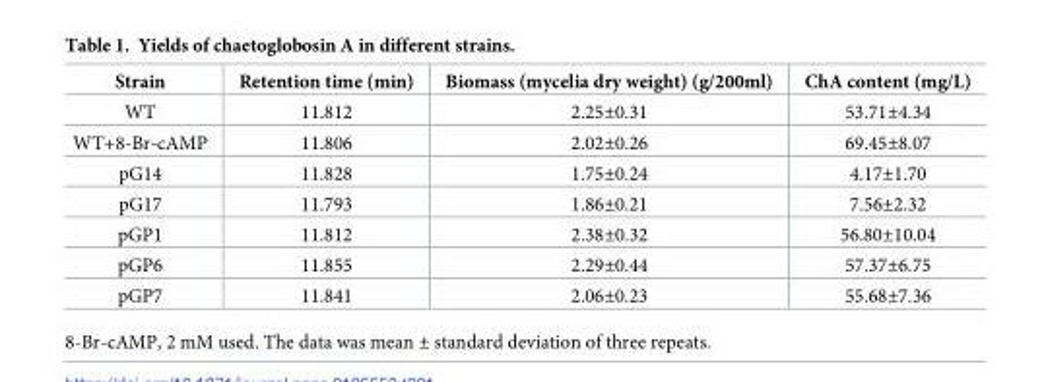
<table><thead><tr><td>Strain</td><td>Retention time (min)</td><td>Biomass (mycelia dry weight) (g/200ml)</td><td>ChA content (mg/L)</td></tr></thead><tbody><tr><td>WT</td><td>11.812</td><td>2.25±0.31</td><td>53.71±4.34</td></tr><tr><td>WT+8-Br-cAMP</td><td>11.806</td><td>2.02±0.26</td><td>69.45±8.07</td></tr><tr><td>pG14</td><td>11.828</td><td>1.75±0.24</td><td>4.17±1.70</td></tr><tr><td>pG17</td><td>11.793</td><td>1.86±0.21</td><td>7.56±2.32</td></tr><tr><td>pGP1</td><td>11.812</td><td>2.38±0.32</td><td>56.80±10.04</td></tr><tr><td>pGP6</td><td>11.855</td><td>2.29±0.44</td><td>57.37±6.75</td></tr><tr><td>pGP7</td><td>11.841</td><td>2.06±0.23</td><td>55.68±7.36</td></tr></tbody></table>